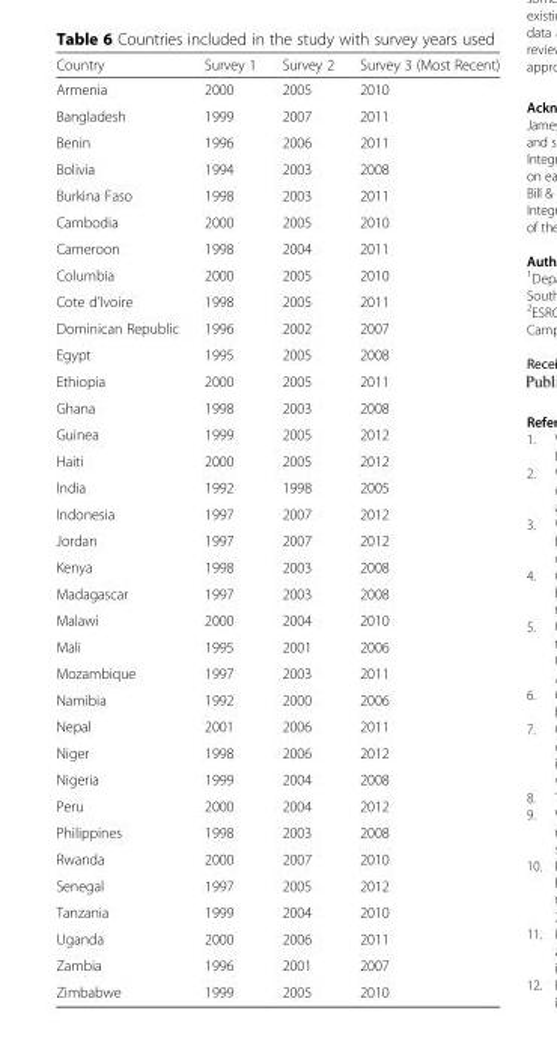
<table><thead><tr><td>Country</td><td>Survey 1</td><td>Survey 2</td><td>Survey 3 (Most Recent)</td></tr></thead><tbody><tr><td>Armenia</td><td>2000</td><td>2005</td><td>2010</td></tr><tr><td>Bangladesh</td><td>1999</td><td>2007</td><td>2011</td></tr><tr><td>Benin</td><td>1996</td><td>2006</td><td>2011</td></tr><tr><td>Bolivia</td><td>1994</td><td>2003</td><td>2008</td></tr><tr><td>Burkina Faso</td><td>1998</td><td>2003</td><td>2011</td></tr><tr><td>Cambodia</td><td>2000</td><td>2005</td><td>2010</td></tr><tr><td>Cameroon</td><td>1998</td><td>2004</td><td>2011</td></tr><tr><td>Columbia</td><td>2000</td><td>2005</td><td>2010</td></tr><tr><td>Cote d’Ivoire</td><td>1998</td><td>2005</td><td>2011</td></tr><tr><td>Dominican Republic</td><td>1996</td><td>2002</td><td>2007</td></tr><tr><td>Egypt</td><td>1995</td><td>2005</td><td>2008</td></tr><tr><td>Ethiopia</td><td>2000</td><td>2005</td><td>2011</td></tr><tr><td>Ghana</td><td>1998</td><td>2003</td><td>2008</td></tr><tr><td>Guinea</td><td>1999</td><td>2005</td><td>2012</td></tr><tr><td>Haiti</td><td>2000</td><td>2005</td><td>2012</td></tr><tr><td>India</td><td>1992</td><td>1998</td><td>2005</td></tr><tr><td>Indonesia</td><td>1997</td><td>2007</td><td>2012</td></tr><tr><td>Jordan</td><td>1997</td><td>2007</td><td>2012</td></tr><tr><td>Kenya</td><td>1998</td><td>2003</td><td>2008</td></tr><tr><td>Madagascar</td><td>1997</td><td>2003</td><td>2008</td></tr><tr><td>Malawi</td><td>2000</td><td>2004</td><td>2010</td></tr><tr><td>Mali</td><td>1995</td><td>2001</td><td>2006</td></tr><tr><td>Mozambique</td><td>1997</td><td>2003</td><td>2011</td></tr><tr><td>Namibia</td><td>1992</td><td>2000</td><td>2006</td></tr><tr><td>Nepal</td><td>2001</td><td>2006</td><td>2011</td></tr><tr><td>Niger</td><td>1998</td><td>2006</td><td>2012</td></tr><tr><td>Nigeria</td><td>1999</td><td>2004</td><td>2008</td></tr><tr><td>Peru</td><td>2000</td><td>2004</td><td>2012</td></tr><tr><td>Philippines</td><td>1998</td><td>2003</td><td>2008</td></tr><tr><td>Rwanda</td><td>2000</td><td>2007</td><td>2010</td></tr><tr><td>Senegal</td><td>1997</td><td>2005</td><td>2012</td></tr><tr><td>Tanzania</td><td>1999</td><td>2004</td><td>2010</td></tr><tr><td>Uganda</td><td>2000</td><td>2006</td><td>2011</td></tr><tr><td>Zambia</td><td>1996</td><td>2001</td><td>2007</td></tr><tr><td>Zimbabwe</td><td>1999</td><td>2005</td><td>2010</td></tr></tbody></table>